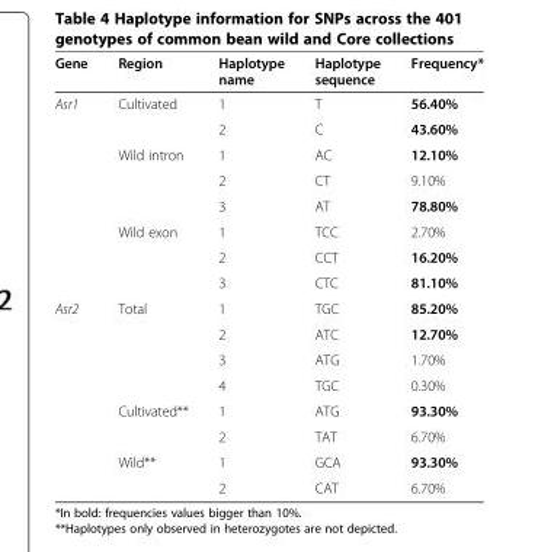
<table><thead><tr><td>Gene</td><td>Region</td><td>Haplotype name</td><td>Haplotype sequence</td><td>Frequency*</td></tr></thead><tbody><tr><td rowspan="8">Asr1</td><td rowspan="2">Cultivated</td><td>1</td><td>T</td><td>56.40%</td></tr><tr><td>2</td><td>C</td><td>43.60%</td></tr><tr><td rowspan="3">Wild intron</td><td>1</td><td>AC</td><td>12.10%</td></tr><tr><td>2</td><td>CT</td><td>9.10%</td></tr><tr><td>3</td><td>AT</td><td>78.80%</td></tr><tr><td rowspan="3">Wild exon</td><td>1</td><td>TCC</td><td>2.70%</td></tr><tr><td>2</td><td>CCT</td><td>16.20%</td></tr><tr><td>3</td><td>CTC</td><td>81.10%</td></tr><tr><td rowspan="8">Asr2</td><td rowspan="3">Total</td><td>1</td><td>TGC</td><td>85.20%</td></tr><tr><td>2</td><td>ATC</td><td>12.70%</td></tr><tr><td>3</td><td>ATG</td><td>1.70%</td></tr><tr><td></td><td>4</td><td>TGC</td><td>0.30%</td></tr><tr><td>Cultivated**</td><td>1</td><td>ATG</td><td>93.30%</td></tr><tr><td></td><td>2</td><td>TAT</td><td>6.70%</td></tr><tr><td>Wild**</td><td>1</td><td>GCA</td><td>93.30%</td></tr><tr><td></td><td>2</td><td>CAT</td><td>6.70%</td></tr></tbody></table>